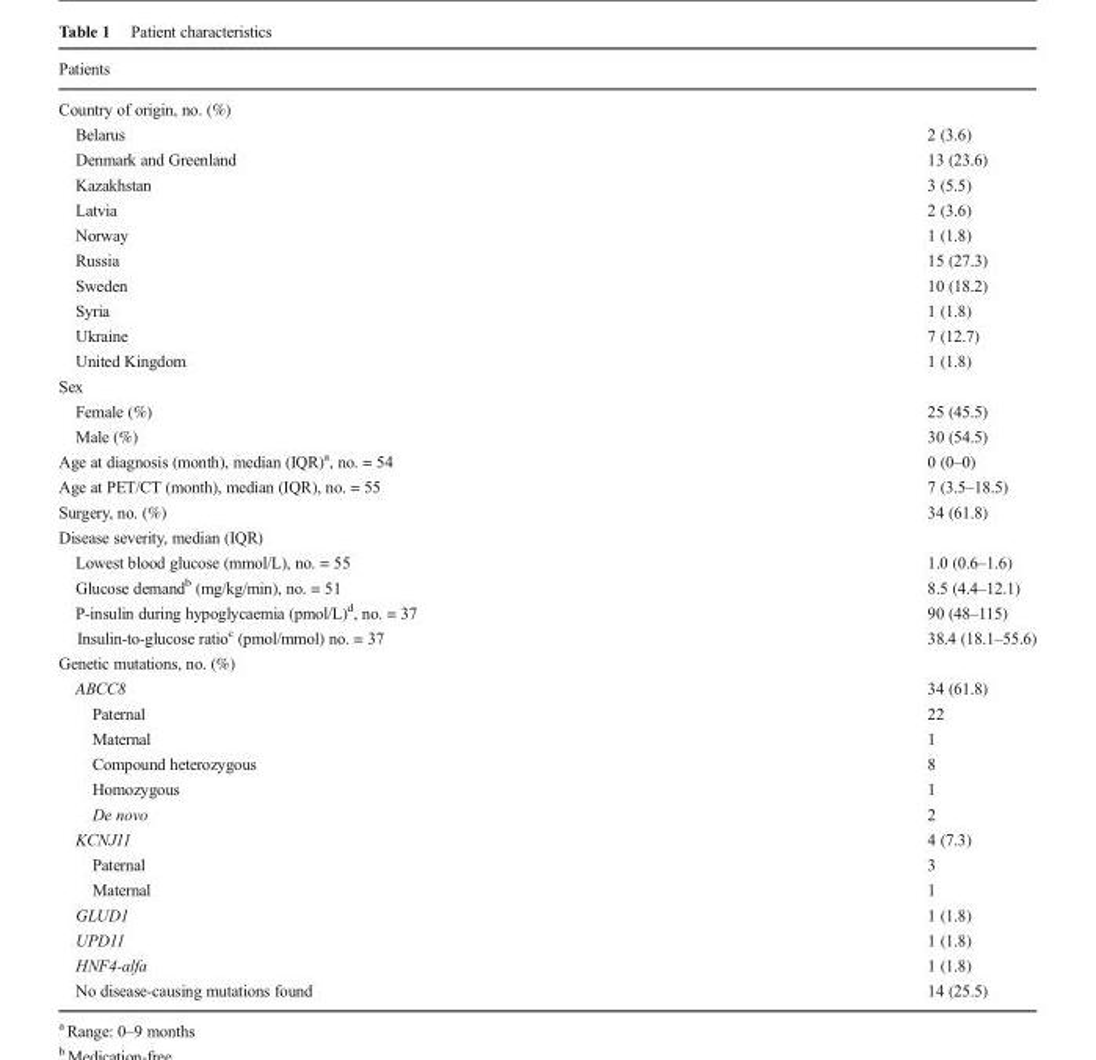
<table><thead><tr><td>Patients</td><td></td></tr></thead><tbody><tr><td colspan="2">Country of origin, no. (%)</td></tr><tr><td>Belarus</td><td>2 (3.6)</td></tr><tr><td>Denmark and Greenland</td><td>13 (23.6)</td></tr><tr><td>Kazakhstan</td><td>3 (5.5)</td></tr><tr><td>Latvia</td><td>2 (3.6)</td></tr><tr><td>Norway</td><td>1 (1.8)</td></tr><tr><td>Russia</td><td>15 (27.3)</td></tr><tr><td>Sweden</td><td>10 (18.2)</td></tr><tr><td>Syria</td><td>1 (1.8)</td></tr><tr><td>Ukraine</td><td>7 (12.7)</td></tr><tr><td>United Kingdom</td><td>1 (1.8)</td></tr><tr><td colspan="2">Sex</td></tr><tr><td>Female (%)</td><td>25 (45.5)</td></tr><tr><td>Male (%)</td><td>30 (54.5)</td></tr><tr><td>Age at diagnosis (month), median (IQR)<sup>a</sup>, no. = 54</td><td>0 (0–0)</td></tr><tr><td>Age at PET/CT (month), median (IQR), no. = 55</td><td>7 (3.5–18.5)</td></tr><tr><td>Surgery, no. (%)</td><td>34 (61.8)</td></tr><tr><td colspan="2">Disease severity, median (IQR)</td></tr><tr><td>Lowest blood glucose (mmol/L), no. = 55</td><td>1.0 (0.6–1.6)</td></tr><tr><td>Glucose demand<sup>b</sup> (mg/kg/min), no. = 51</td><td>8.5 (4.4–12.1)</td></tr><tr><td>P-insulin during hypoglycaemia (pmol/L)<sup>d</sup>, no. = 37</td><td>90 (48–115)</td></tr><tr><td>Insulin-to-glucose ratio<sup>c</sup> (pmol/mmol) no. = 37</td><td>38.4 (18.1–55.6)</td></tr><tr><td colspan="2">Genetic mutations, no. (%)</td></tr><tr><td>ABCC8</td><td>34 (61.8)</td></tr><tr><td>Paternal</td><td>22</td></tr><tr><td>Maternal</td><td>1</td></tr><tr><td>Compound heterozygous</td><td>8</td></tr><tr><td>Homozygous</td><td>1</td></tr><tr><td>De novo</td><td>2</td></tr><tr><td>KCNJ11</td><td>4 (7.3)</td></tr><tr><td>Paternal</td><td>3</td></tr><tr><td>Maternal</td><td>1</td></tr><tr><td>GLUD1</td><td>1 (1.8)</td></tr><tr><td>UPD11</td><td>1 (1.8)</td></tr><tr><td>HNF4-alfa</td><td>1 (1.8)</td></tr><tr><td>No disease-causing mutations found</td><td>14 (25.5)</td></tr></tbody></table>